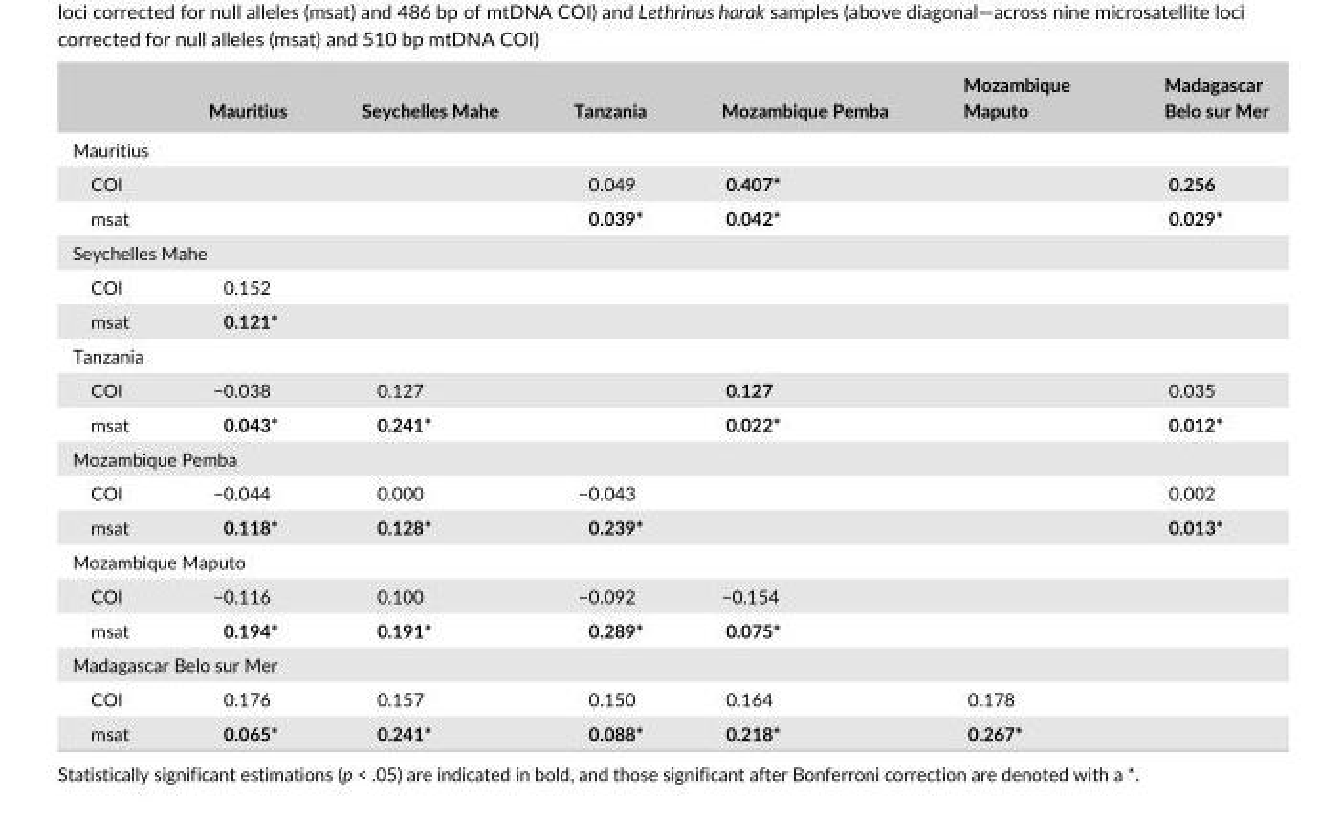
<table><thead><tr><td></td><td>Mauritius</td><td>Seychelles Mahe</td><td>Tanzania</td><td>Mozambique Pemba</td><td>Mozambique Maputo</td><td>Madagascar Belo sur Mer</td></tr></thead><tbody><tr><td colspan="7">Mauritius</td></tr><tr><td>COI</td><td></td><td></td><td>0.049</td><td>0.407*</td><td></td><td>0.256</td></tr><tr><td>msat</td><td></td><td></td><td>0.039*</td><td>0.042*</td><td></td><td>0.029*</td></tr><tr><td colspan="7">Seychelles Mahe</td></tr><tr><td>COI</td><td>0.152</td><td></td><td></td><td></td><td></td><td></td></tr><tr><td>msat</td><td>0.121*</td><td></td><td></td><td></td><td></td><td></td></tr><tr><td colspan="7">Tanzania</td></tr><tr><td>COI</td><td>−0.038</td><td>0.127</td><td></td><td>0.127</td><td></td><td>0.035</td></tr><tr><td>msat</td><td>0.043*</td><td>0.241*</td><td></td><td>0.022*</td><td></td><td>0.012*</td></tr><tr><td colspan="7">Mozambique Pemba</td></tr><tr><td>COI</td><td>−0.044</td><td>0.000</td><td>−0.043</td><td></td><td></td><td>0.002</td></tr><tr><td>msat</td><td>0.118*</td><td>0.128*</td><td>0.239*</td><td></td><td></td><td>0.013*</td></tr><tr><td colspan="7">Mozambique Maputo</td></tr><tr><td>COI</td><td>−0.116</td><td>0.100</td><td>−0.092</td><td>−0.154</td><td></td><td></td></tr><tr><td>msat</td><td>0.194*</td><td>0.191*</td><td>0.289*</td><td>0.075*</td><td></td><td></td></tr><tr><td colspan="7">Madagascar Belo sur Mer</td></tr><tr><td>COI</td><td>0.176</td><td>0.157</td><td>0.150</td><td>0.164</td><td>0.178</td><td></td></tr><tr><td>msat</td><td>0.065*</td><td>0.241*</td><td>0.088*</td><td>0.218*</td><td>0.267*</td><td></td></tr></tbody></table>